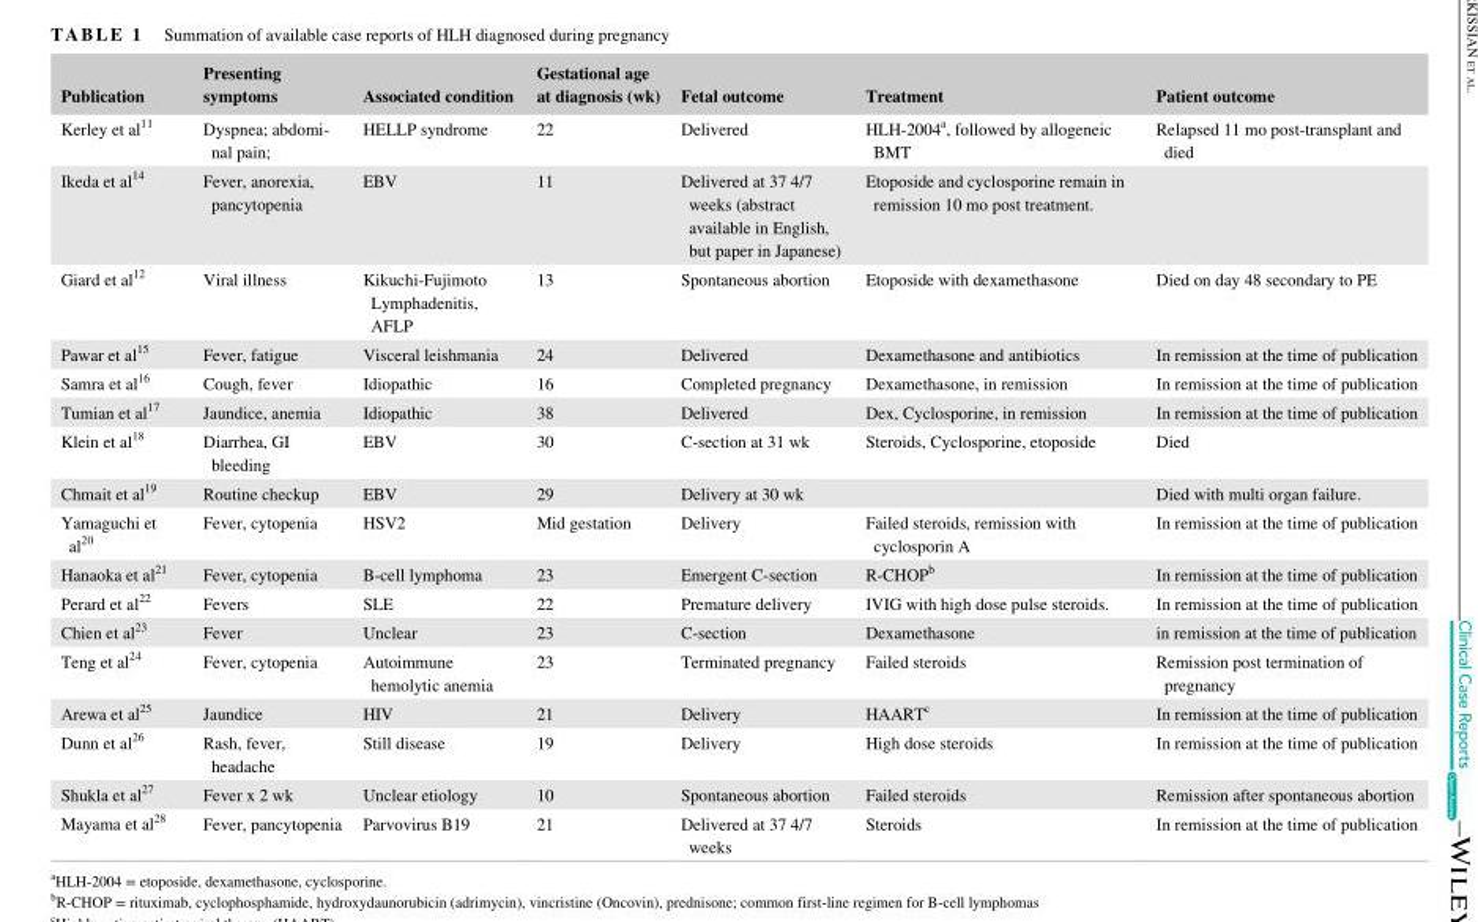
<table><thead><tr><td>Publication</td><td>Presenting symptoms</td><td>Associated condition</td><td>Gestational age at diagnosis (wk)</td><td>Fetal outcome</td><td>Treatment</td><td>Patient outcome</td></tr></thead><tbody><tr><td>Kerley et al<sup>11</sup></td><td>Dyspnea; abdomi- nal pain;</td><td>HELLP syndrome</td><td>22</td><td>Delivered</td><td>HLH‐2004<sup>a</sup>, followed by allogeneic BMT</td><td>Relapsed 11 mo post‐transplant and died</td></tr><tr><td>Ikeda et al<sup>14</sup></td><td>Fever, anorexia, pancytopenia</td><td>EBV</td><td>11</td><td>Delivered at 37 4/7 weeks (abstract available in English, but paper in Japanese)</td><td>Etoposide and cyclosporine remain in remission 10 mo post treatment.</td><td></td></tr><tr><td>Giard et al<sup>12</sup></td><td>Viral illness</td><td>Kikuchi‐Fujimoto Lymphadenitis, AFLP</td><td>13</td><td>Spontaneous abortion</td><td>Etoposide with dexamethasone</td><td>Died on day 48 secondary to PE</td></tr><tr><td>Pawar et al<sup>15</sup></td><td>Fever, fatigue</td><td>Visceral leishmania</td><td>24</td><td>Delivered</td><td>Dexamethasone and antibiotics</td><td>In remission at the time of publication</td></tr><tr><td>Samra et al<sup>16</sup></td><td>Cough, fever</td><td>Idiopathic</td><td>16</td><td>Completed pregnancy</td><td>Dexamethasone, in remission</td><td>In remission at the time of publication</td></tr><tr><td>Tumian et al<sup>17</sup></td><td>Jaundice, anemia</td><td>Idiopathic</td><td>38</td><td>Delivered</td><td>Dex, Cyclosporine, in remission</td><td>In remission at the time of publication</td></tr><tr><td>Klein et al<sup>18</sup></td><td>Diarrhea, GI bleeding</td><td>EBV</td><td>30</td><td>C‐section at 31 wk</td><td>Steroids, Cyclosporine, etoposide</td><td>Died</td></tr><tr><td>Chmait et al<sup>19</sup></td><td>Routine checkup</td><td>EBV</td><td>29</td><td>Delivery at 30 wk</td><td></td><td>Died with multi organ failure.</td></tr><tr><td>Yamaguchi et al<sup>20</sup></td><td>Fever, cytopenia</td><td>HSV2</td><td>Mid gestation</td><td>Delivery</td><td>Failed steroids, remission with cyclosporin A</td><td>In remission at the time of publication</td></tr><tr><td>Hanaoka et al<sup>21</sup></td><td>Fever, cytopenia</td><td>B‐cell lymphoma</td><td>23</td><td>Emergent C‐section</td><td>R‐CHOP<sup>b</sup></td><td>In remission at the time of publication</td></tr><tr><td>Perard et al<sup>22</sup></td><td>Fevers</td><td>SLE</td><td>22</td><td>Premature delivery</td><td>IVIG with high dose pulse steroids.</td><td>In remission at the time of publication</td></tr><tr><td>Chien et al<sup>23</sup></td><td>Fever</td><td>Unclear</td><td>23</td><td>C‐section</td><td>Dexamethasone</td><td>in remission at the time of publication</td></tr><tr><td>Teng et al<sup>24</sup></td><td>Fever, cytopenia</td><td>Autoimmune hemolytic anemia</td><td>23</td><td>Terminated pregnancy</td><td>Failed steroids</td><td>Remission post termination of pregnancy</td></tr><tr><td>Arewa et al<sup>25</sup></td><td>Jaundice</td><td>HIV</td><td>21</td><td>Delivery</td><td>HAART<sup>c</sup></td><td>In remission at the time of publication</td></tr><tr><td>Dunn et al<sup>26</sup></td><td>Rash, fever, headache</td><td>Still disease</td><td>19</td><td>Delivery</td><td>High dose steroids</td><td>In remission at the time of publication</td></tr><tr><td>Shukla et al<sup>27</sup></td><td>Fever x 2 wk</td><td>Unclear etiology</td><td>10</td><td>Spontaneous abortion</td><td>Failed steroids</td><td>Remission after spontaneous abortion</td></tr><tr><td>Mayama et al<sup>28</sup></td><td>Fever, pancytopenia</td><td>Parvovirus B19</td><td>21</td><td>Delivered at 37 4/7 weeks</td><td>Steroids</td><td>In remission at the time of publication</td></tr></tbody></table>